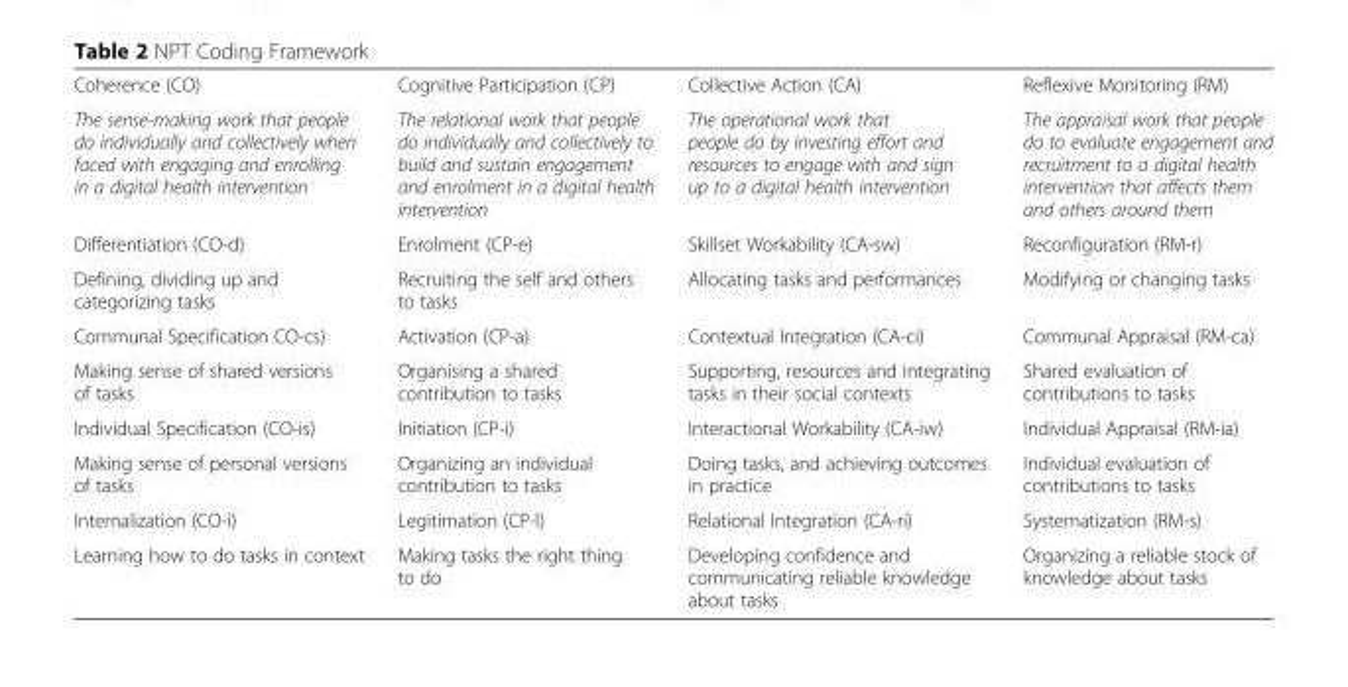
<table><tbody><tr><td>Coherence (CO)</td><td>Cognitive Participation (CP)</td><td>Collective Action (CA)</td><td>Reflexive Monitoring (RM)</td></tr><tr><td>The sense-making work that people do individually and collectively when faced with engaging and enrolling in a digital health intervention</td><td>The relational work that people do individually and collectively to build and sustain engagement and enrolment in a digital health intervention</td><td>The operational work that people do by investing effort and resources to engage with and sign up to a digital health intervention</td><td>The appraisal work that people do to evaluate engagement and recruitment to a digital health intervention that affects them and others around them</td></tr><tr><td>Differentiation (CO-d)</td><td>Enrolment (CP-e)</td><td>Skillset Workability (CA-sw)</td><td>Reconfiguration (RM-r)</td></tr><tr><td>Defining, dividing up and categorizing tasks</td><td>Recruiting the self and others to tasks</td><td>Allocating tasks and performances</td><td>Modifying or changing tasks</td></tr><tr><td>Communal Specification CO-cs)</td><td>Activation (CP-a)</td><td>Contextual Integration (CA-ci)</td><td>Communal Appraisal (RM-ca)</td></tr><tr><td>Making sense of shared versions of tasks</td><td>Organising a shared contribution to tasks</td><td>Supporting, resources and integrating tasks in their social contexts</td><td>Shared evaluation of contributions to tasks</td></tr><tr><td>Individual Specification (CO-is)</td><td>Initiation (CP-i)</td><td>Interactional Workability (CA-iw)</td><td>Individual Appraisal (RM-ia)</td></tr><tr><td>Making sense of personal versions of tasks</td><td>Organizing an individual contribution to tasks</td><td>Doing tasks, and achieving outcomes in practice</td><td>Individual evaluation of contributions to tasks</td></tr><tr><td>Internalization (CO-i)</td><td>Legitimation (CP-l)</td><td>Relational Integration (CA-ri)</td><td>Systematization (RM-s)</td></tr><tr><td>Learning how to do tasks in context</td><td>Making tasks the right thing to do</td><td>Developing confidence and communicating reliable knowledge about tasks</td><td>Organizing a reliable stock of knowledge about tasks</td></tr></tbody></table>